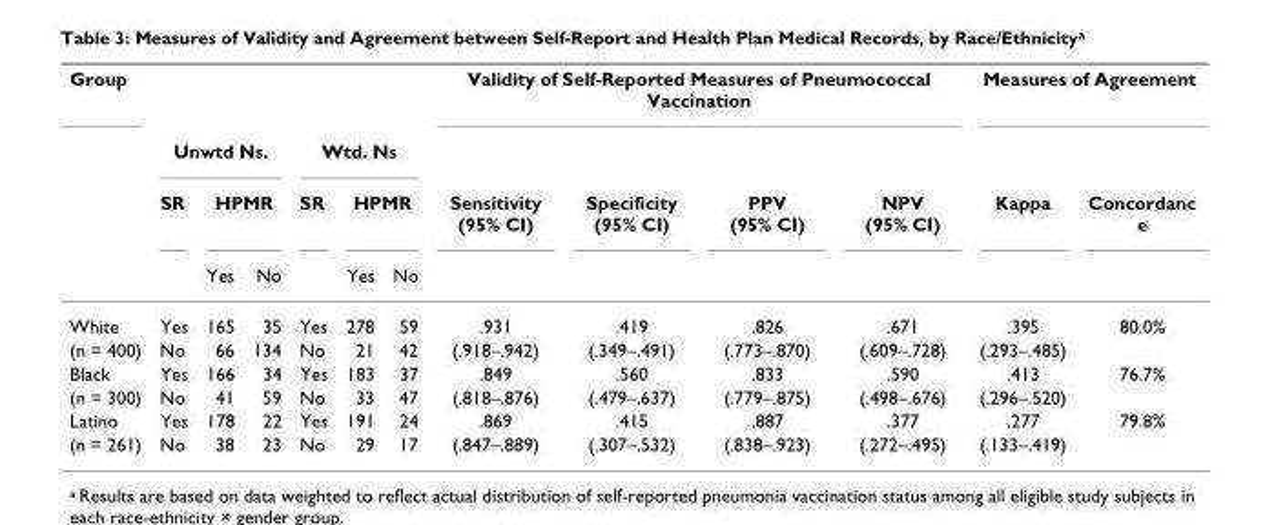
<table><thead><tr><td rowspan="4">Group</td><td></td><td></td><td></td><td></td><td></td><td></td><td colspan="4">Validity of Self-Reported Measures of Pneumococcal Vaccination</td><td colspan="2">Measures of Agreement</td></tr><tr><td colspan="3">Unwtd Ns.</td><td colspan="3">Wtd. Ns</td><td rowspan="3">Sensitivity (95% CI)</td><td rowspan="3">Specificity (95% CI)</td><td rowspan="3">PPV (95% CI)</td><td rowspan="3">NPV (95% CI)</td><td rowspan="3">Kappa</td><td rowspan="3">Concordanc e</td></tr><tr><td rowspan="2">SR</td><td colspan="2">HPMR</td><td rowspan="2">SR</td><td colspan="2">HPMR</td></tr><tr><td>Yes</td><td>No</td><td>Yes</td><td>No</td></tr></thead><tbody><tr><td>White</td><td>Yes</td><td>165</td><td>35</td><td>Yes</td><td>278</td><td>59</td><td>.931</td><td>.419</td><td>.826</td><td>.671</td><td>.395</td><td>80.0%</td></tr><tr><td>(n = 400)</td><td>No</td><td>66</td><td>134</td><td>No</td><td>21</td><td>42</td><td>(.918–.942)</td><td>(.349–.491)</td><td>(.773–.870)</td><td>(.609–.728)</td><td>(.293–.485)</td><td></td></tr><tr><td>Black</td><td>Yes</td><td>166</td><td>34</td><td>Yes</td><td>183</td><td>37</td><td>.849</td><td>.560</td><td>.833</td><td>.590</td><td>.413</td><td>76.7%</td></tr><tr><td>(n = 300)</td><td>No</td><td>41</td><td>59</td><td>No</td><td>33</td><td>47</td><td>(.818–.876)</td><td>(.479–.637)</td><td>(.779–.875)</td><td>(.498–.676)</td><td>(.296–.520)</td><td></td></tr><tr><td>Latino</td><td>Yes</td><td>178</td><td>22</td><td>Yes</td><td>191</td><td>24</td><td>.869</td><td>.415</td><td>.887</td><td>.377</td><td>.277</td><td>79.8%</td></tr><tr><td>(n = 261)</td><td>No</td><td>38</td><td>23</td><td>No</td><td>29</td><td>17</td><td>(.847–.889)</td><td>(.307–.532)</td><td>(.838–.923)</td><td>(.272–.495)</td><td>(.133–.419)</td><td></td></tr></tbody></table>